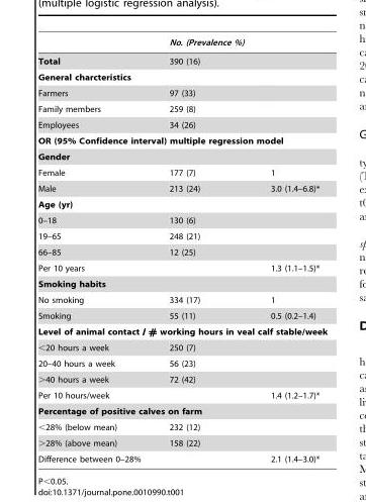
<table><thead><tr><td></td><td>No. (Prevalence %)</td><td></td></tr></thead><tbody><tr><td>Total</td><td>390 (16)</td><td></td></tr><tr><td colspan="3">General charcteristics</td></tr><tr><td>Farmers</td><td>97 (33)</td><td></td></tr><tr><td>Family members</td><td>259 (8)</td><td></td></tr><tr><td>Employees</td><td>34 (26)</td><td></td></tr><tr><td colspan="3">OR (95% Confidence interval) multiple regression model</td></tr><tr><td colspan="3">Gender</td></tr><tr><td>Female</td><td>177 (7)</td><td>1</td></tr><tr><td>Male</td><td>213 (24)</td><td>3.0 (1.4–6.8)*</td></tr><tr><td colspan="3">Age (yr)</td></tr><tr><td>0–18</td><td>130 (6)</td><td></td></tr><tr><td>19–65</td><td>248 (21)</td><td></td></tr><tr><td>66–85</td><td>12 (25)</td><td></td></tr><tr><td>Per 10 years</td><td></td><td>1.3 (1.1–1.5)*</td></tr><tr><td colspan="3">Smoking habits</td></tr><tr><td>No smoking</td><td>334 (17)</td><td>1</td></tr><tr><td>Smoking</td><td>55 (11)</td><td>0.5 (0.2–1.4)</td></tr><tr><td colspan="3">Level of animal contact // # working hours in veal calf stable/week</td></tr><tr><td>&lt;20 hours a week</td><td>250 (7)</td><td></td></tr><tr><td>20–40 hours a week</td><td>56 (23)</td><td></td></tr><tr><td>&gt;40 hours a week</td><td>72 (42)</td><td></td></tr><tr><td>Per 10 hours/week</td><td></td><td>1.4 (1.2–1.7)*</td></tr><tr><td colspan="3">Percentage of positive calves on farm</td></tr><tr><td>&lt;28% (below mean)</td><td>232 (12)</td><td></td></tr><tr><td>&gt;28% (above mean)</td><td>158 (22)</td><td></td></tr><tr><td>Difference between 0–28%</td><td></td><td>2.1 (1.4–3.0)*</td></tr></tbody></table>